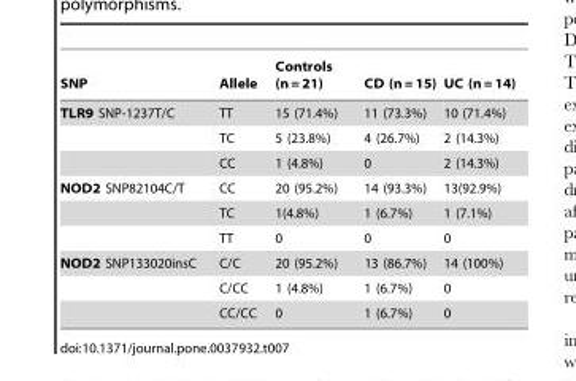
<table><thead><tr><td>SNP</td><td>Allele</td><td>Controls (n = 21)</td><td>CD (n = 15)</td><td>UC (n = 14)</td></tr></thead><tbody><tr><td rowspan="3">TLR9 SNP-1237T/C</td><td>TT</td><td>15 (71.4%)</td><td>11 (73.3%)</td><td>10 (71.4%)</td></tr><tr><td>TC</td><td>5 (23.8%)</td><td>4 (26.7%)</td><td>2 (14.3%)</td></tr><tr><td>CC</td><td>1 (4.8%)</td><td>0</td><td>2 (14.3%)</td></tr><tr><td rowspan="3">NOD2 SNP82104C/T</td><td>CC</td><td>20 (95.2%)</td><td>14 (93.3%)</td><td>13(92.9%)</td></tr><tr><td>TC</td><td>1(4.8%)</td><td>1 (6.7%)</td><td>1 (7.1%)</td></tr><tr><td>TT</td><td>0</td><td>0</td><td>0</td></tr><tr><td rowspan="3">NOD2 SNP133020insC</td><td>C/C</td><td>20 (95.2%)</td><td>13 (86.7%)</td><td>14 (100%)</td></tr><tr><td>C/CC</td><td>1 (4.8%)</td><td>1 (6.7%)</td><td>0</td></tr><tr><td>CC/CC</td><td>0</td><td>1 (6.7%)</td><td>0</td></tr></tbody></table>